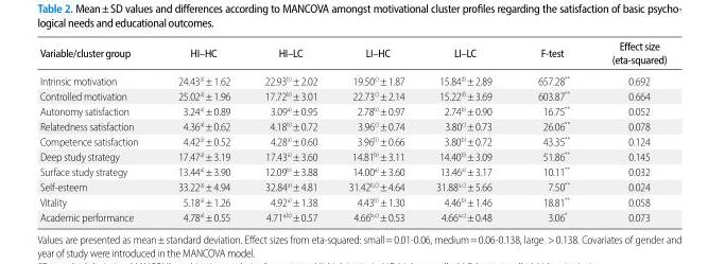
<table><thead><tr><td>Variable/cluster group</td><td>HI–HC</td><td>HI–LC</td><td>LI–HC</td><td>LI–LC</td><td>F-test</td><td>Effect size (eta-squared)</td></tr></thead><tbody><tr><td>Intrinsic motivation</td><td>24.43<sup>a)</sup>±1.62</td><td>22.93<sup>b)</sup>±2.02</td><td>19.50<sup>c)</sup>±1.87</td><td>15.84d)±2.89</td><td>657.28**</td><td>0.692</td></tr><tr><td>Controlled motivation</td><td>25.02<sup>a)</sup>±1.96</td><td>17.72<sup>b)</sup>±3.01</td><td>22.73<sup>c)</sup>±2.14</td><td>15.22d)±3.69</td><td>603.87**</td><td>0.664</td></tr><tr><td>Autonomy satisfaction</td><td>3.24<sup>a)</sup>±0.89</td><td>3.09<sup>a)</sup>±0.95</td><td>2.78<sup>b)</sup>±0.97</td><td>2.74<sup>b)</sup>±0.90</td><td>16.75**</td><td>0.052</td></tr><tr><td>Relatedness satisfaction</td><td>4.36<sup>a)</sup>±0.62</td><td>4.18<sup>b)</sup>±0.72</td><td>3.96<sup>c)</sup>±0.74</td><td>3.80<sup>c)</sup>±0.73</td><td>26.06**</td><td>0.078</td></tr><tr><td>Competence satisfaction</td><td>4.42<sup>a)</sup>±0.52</td><td>4.28<sup>a)</sup>±0.60</td><td>3.96<sup>b)</sup>±0.66</td><td>3.80<sup>b)</sup>±0.72</td><td>43.35**</td><td>0.124</td></tr><tr><td>Deep study strategy</td><td>17.47<sup>a)</sup>±3.19</td><td>17.43<sup>a)</sup>±3.60</td><td>14.81<sup>b)</sup>±3.11</td><td>14.40<sup>b)</sup>±3.09</td><td>51.86**</td><td>0.145</td></tr><tr><td>Surface study strategy</td><td>13.44<sup>a)</sup>±3.90</td><td>12.09<sup>b)</sup>±3.88</td><td>14.00<sup>a)</sup>±3.60</td><td>13.46<sup>a)</sup>±3.17</td><td>10.11**</td><td>0.032</td></tr><tr><td>Self-esteem</td><td>33.22<sup>a)</sup>±4.94</td><td>32.84<sup>a)</sup>±4.81</td><td>31.42b,<sup>c)</sup>±4.64</td><td>31.88a,<sup>c)</sup>±5.66</td><td>7.50**</td><td>0.024</td></tr><tr><td>Vitality</td><td>5.18<sup>a)</sup>±1.26</td><td>4.92<sup>a)</sup>±1.38</td><td>4.43<sup>b)</sup>±1.30</td><td>4.46<sup>b)</sup>±1.46</td><td>18.81**</td><td>0.058</td></tr><tr><td>Academic performance</td><td>4.78<sup>a)</sup>±0.55</td><td>4.71a,<sup>b)</sup>±0.57</td><td>4.66b,<sup>c)</sup>±0.53</td><td>4.66a,<sup>c)</sup>±0.48</td><td>3.06*</td><td>0.073</td></tr></tbody></table>